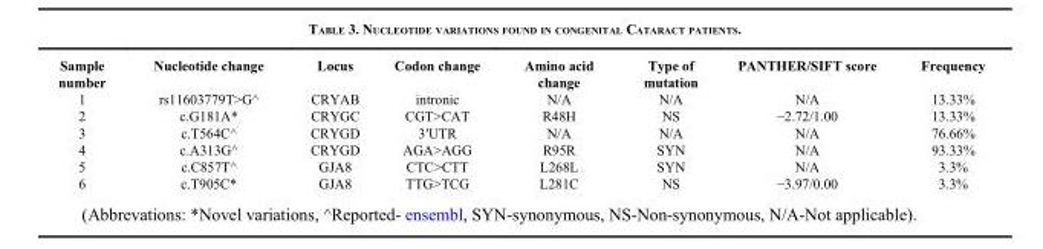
<table><thead><tr><td>Sample number</td><td>Nucleotide change</td><td>Locus</td><td>Codon change</td><td>Amino acid change</td><td>Type of mutation</td><td>PANTHER/SIFT score</td><td>Frequency</td></tr></thead><tbody><tr><td>1</td><td>rs11603779T&gt;G^</td><td>CRYAB</td><td>intronic</td><td>N/A</td><td>N/A</td><td>N/A</td><td>13.33%</td></tr><tr><td>2</td><td>c.G181A*</td><td>CRYGC</td><td>CGT&gt;CAT</td><td>R48H</td><td>NS</td><td>−2.72/1.00</td><td>13.33%</td></tr><tr><td>3</td><td>c.T564C^</td><td>CRYGD</td><td>3′UTR</td><td>N/A</td><td>N/A</td><td>N/A</td><td>76.66%</td></tr><tr><td>4</td><td>c.A313G^</td><td>CRYGD</td><td>AGA&gt;AGG</td><td>R95R</td><td>SYN</td><td>N/A</td><td>93.33%</td></tr><tr><td>5</td><td>c.C857T^</td><td>GJA8</td><td>CTC&gt;CTT</td><td>L268L</td><td>SYN</td><td>N/A</td><td>3.3%</td></tr><tr><td>6</td><td>c.T905C*</td><td>GJA8</td><td>TTG&gt;TCG</td><td>L281C</td><td>NS</td><td>−3.97/0.00</td><td>3.3%</td></tr></tbody></table>